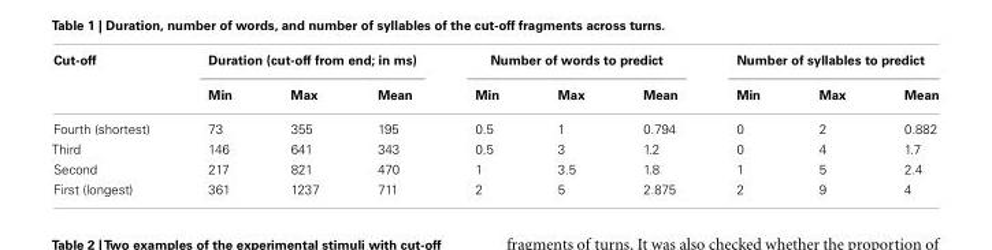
<table><thead><tr><td rowspan="2">Cut-off</td><td colspan="3">Duration (cut-off from end; in ms)</td><td colspan="3">Number of words to predict</td><td colspan="3">Number of syllables to predict</td></tr><tr><td>Min</td><td>Max</td><td>Mean</td><td>Min</td><td>Max</td><td>Mean</td><td>Min</td><td>Max</td><td>Mean</td></tr></thead><tbody><tr><td>Fourth (shortest)</td><td>73</td><td>355</td><td>195</td><td>0.5</td><td>1</td><td>0.794</td><td>0</td><td>2</td><td>0.882</td></tr><tr><td>Third</td><td>146</td><td>641</td><td>343</td><td>0.5</td><td>3</td><td>1.2</td><td>0</td><td>4</td><td>1.7</td></tr><tr><td>Second</td><td>217</td><td>821</td><td>470</td><td>1</td><td>3.5</td><td>1.8</td><td>1</td><td>5</td><td>2.4</td></tr><tr><td>First (longest)</td><td>361</td><td>1237</td><td>711</td><td>2</td><td>5</td><td>2.875</td><td>2</td><td>9</td><td>4</td></tr></tbody></table>